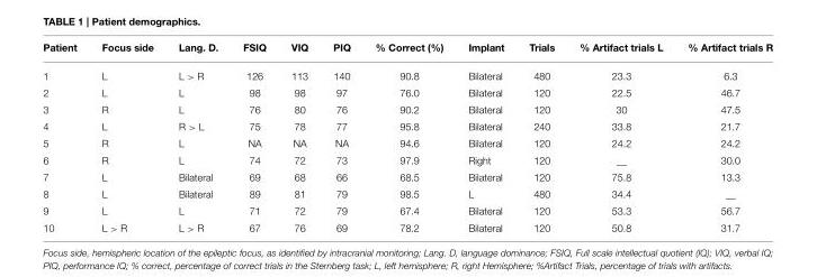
<table><thead><tr><td>Patient</td><td>Focus side</td><td>Lang. D.</td><td>FSIQ</td><td>VIQ</td><td>PIQ</td><td>% Correct (%)</td><td>Implant</td><td>Trials</td><td>% Artifact trials L</td><td>% Artifact trials R</td></tr></thead><tbody><tr><td>1</td><td>L</td><td>L &gt; R</td><td>126</td><td>113</td><td>140</td><td>90.8</td><td>Bilateral</td><td>480</td><td>23.3</td><td>6.3</td></tr><tr><td>2</td><td>L</td><td>L</td><td>98</td><td>98</td><td>97</td><td>76.0</td><td>Bilateral</td><td>120</td><td>22.5</td><td>46.7</td></tr><tr><td>3</td><td>R</td><td>L</td><td>76</td><td>80</td><td>76</td><td>90.2</td><td>Bilateral</td><td>120</td><td>30</td><td>47.5</td></tr><tr><td>4</td><td>L</td><td>R &gt; L</td><td>75</td><td>78</td><td>77</td><td>95.8</td><td>Bilateral</td><td>240</td><td>33.8</td><td>21.7</td></tr><tr><td>5</td><td>R</td><td>L</td><td>NA</td><td>NA</td><td>NA</td><td>94.6</td><td>Bilateral</td><td>120</td><td>24.2</td><td>24.2</td></tr><tr><td>6</td><td>R</td><td>L</td><td>74</td><td>72</td><td>73</td><td>97.9</td><td>Right</td><td>120</td><td>__</td><td>30.0</td></tr><tr><td>7</td><td>L</td><td>Bilateral</td><td>69</td><td>68</td><td>66</td><td>68.5</td><td>Bilateral</td><td>120</td><td>75.8</td><td>13.3</td></tr><tr><td>8</td><td>L</td><td>Bilateral</td><td>89</td><td>81</td><td>79</td><td>98.5</td><td>L</td><td>480</td><td>34.4</td><td>__</td></tr><tr><td>9</td><td>L</td><td>L</td><td>71</td><td>72</td><td>79</td><td>67.4</td><td>Bilateral</td><td>120</td><td>53.3</td><td>56.7</td></tr><tr><td>10</td><td>L &gt; R</td><td>L &gt; R</td><td>67</td><td>76</td><td>69</td><td>78.2</td><td>Bilateral</td><td>120</td><td>50.8</td><td>31.7</td></tr></tbody></table>